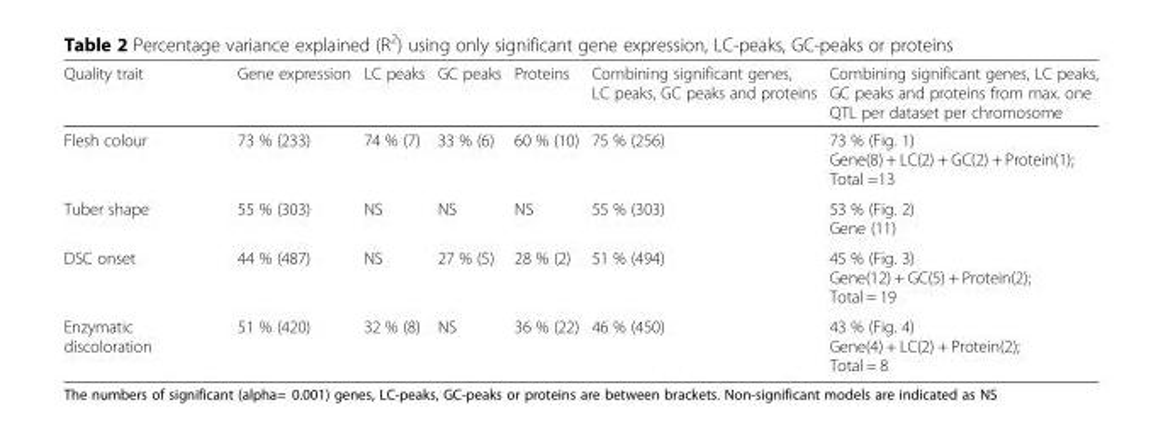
<table><thead><tr><td>Quality trait</td><td>Gene expression</td><td>LC peaks</td><td>GC peaks</td><td>Proteins</td><td>Combining significant genes, LC peaks, GC peaks and proteins</td><td>Combining significant genes, LC peaks, GC peaks and proteins from max. one QTL per dataset per chromosome</td></tr></thead><tbody><tr><td>Flesh colour</td><td>73 % (233)</td><td>74 % (7)</td><td>33 % (6)</td><td>60 % (10)</td><td>75 % (256)</td><td>73 % (Fig. 1) Gene(8) + LC(2) + GC(2) + Protein(1); Total =13</td></tr><tr><td>Tuber shape</td><td>55 % (303)</td><td>NS</td><td>NS</td><td>NS</td><td>55 % (303)</td><td>53 % (Fig. 2) Gene (11)</td></tr><tr><td>DSC onset</td><td>44 % (487)</td><td>NS</td><td>27 % (5)</td><td>28 % (2)</td><td>51 % (494)</td><td>45 % (Fig. 3) Gene(12) + GC(5) + Protein(2); Total = 19</td></tr><tr><td>Enzymatic discoloration</td><td>51 % (420)</td><td>32 % (8)</td><td>NS</td><td>36 % (22)</td><td>46 % (450)</td><td>43 % (Fig. 4) Gene(4) + LC(2) + Protein(2); Total = 8</td></tr></tbody></table>